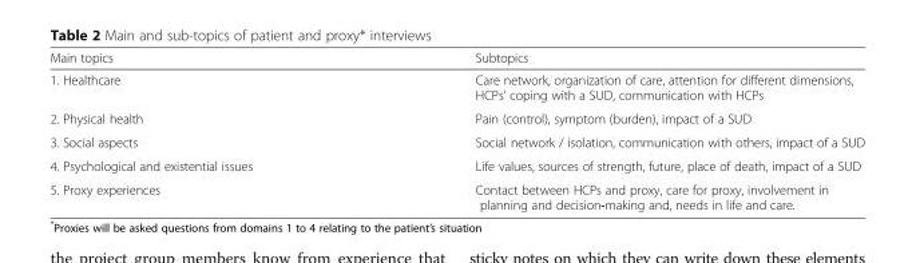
<table><thead><tr><td>Main topics</td><td>Subtopics</td></tr></thead><tbody><tr><td>1. Healthcare</td><td>Care network, organization of care, attention for different dimensions, HCPs’ coping with a SUD, communication with HCPs</td></tr><tr><td>2. Physical health</td><td>Pain (control), symptom (burden), impact of a SUD</td></tr><tr><td>3. Social aspects</td><td>Social network / isolation, communication with others, impact of a SUD</td></tr><tr><td>4. Psychological and existential issues</td><td>Life values, sources of strength, future, place of death, impact of a SUD</td></tr><tr><td>5. Proxy experiences</td><td>Contact between HCPs and proxy, care for proxy, involvement in planning and decision-making and, needs in life and care.</td></tr></tbody></table>